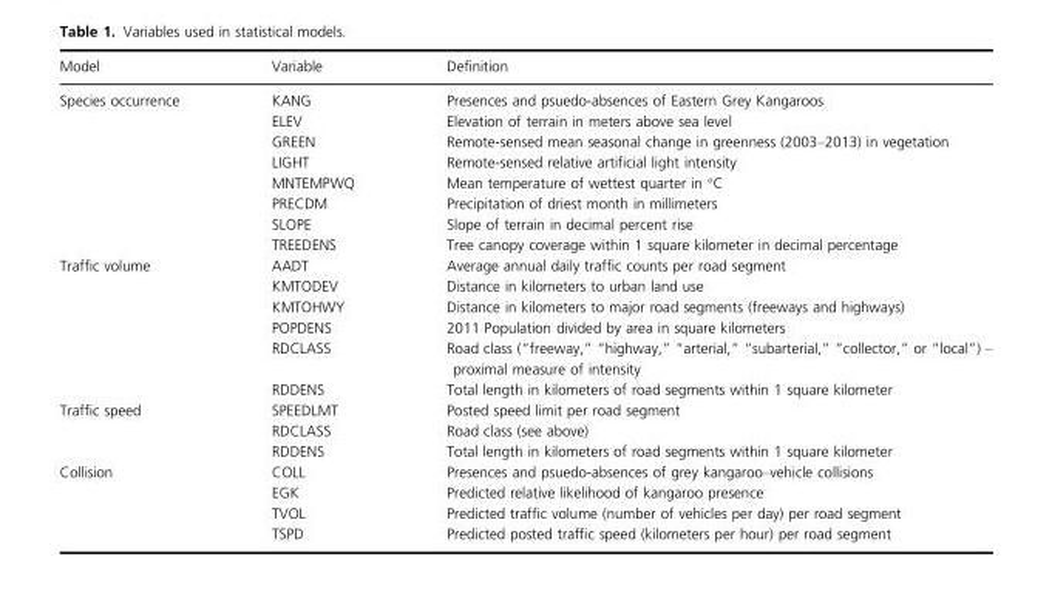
<table><thead><tr><td>Model</td><td>Variable</td><td>Definition</td></tr></thead><tbody><tr><td rowspan="8">Species occurrence</td><td>KANG</td><td>Presences and psuedo-absences of Eastern Grey Kangaroos</td></tr><tr><td>ELEV</td><td>Elevation of terrain in meters above sea level</td></tr><tr><td>GREEN</td><td>Remote-sensed mean seasonal change in greenness (2003–2013) in vegetation</td></tr><tr><td>LIGHT</td><td>Remote-sensed relative artificial light intensity</td></tr><tr><td>MNTEMPWQ</td><td>Mean temperature of wettest quarter in °C</td></tr><tr><td>PRECDM</td><td>Precipitation of driest month in millimeters</td></tr><tr><td>SLOPE</td><td>Slope of terrain in decimal percent rise</td></tr><tr><td>TREEDENS</td><td>Tree canopy coverage within 1 square kilometer in decimal percentage</td></tr><tr><td rowspan="6">Traffic volume</td><td>AADT</td><td>Average annual daily traffic counts per road segment</td></tr><tr><td>KMTODEV</td><td>Distance in kilometers to urban land use</td></tr><tr><td>KMTOHWY</td><td>Distance in kilometers to major road segments (freeways and highways)</td></tr><tr><td>POPDENS</td><td>2011 Population divided by area in square kilometers</td></tr><tr><td>RDCLASS</td><td>Road class (“freeway,” “highway,” “arterial,” “subarterial,” “collector,” or “local”) – proximal measure of intensity</td></tr><tr><td>RDDENS</td><td>Total length in kilometers of road segments within 1 square kilometer</td></tr><tr><td rowspan="3">Traffic speed</td><td>SPEEDLMT</td><td>Posted speed limit per road segment</td></tr><tr><td>RDCLASS</td><td>Road class (see above)</td></tr><tr><td>RDDENS</td><td>Total length in kilometers of road segments within 1 square kilometer</td></tr><tr><td rowspan="4">Collision</td><td>COLL</td><td>Presences and psuedo-absences of grey kangaroo–vehicle collisions</td></tr><tr><td>EGK</td><td>Predicted relative likelihood of kangaroo presence</td></tr><tr><td>TVOL</td><td>Predicted traffic volume (number of vehicles per day) per road segment</td></tr><tr><td>TSPD</td><td>Predicted posted traffic speed (kilometers per hour) per road segment</td></tr></tbody></table>